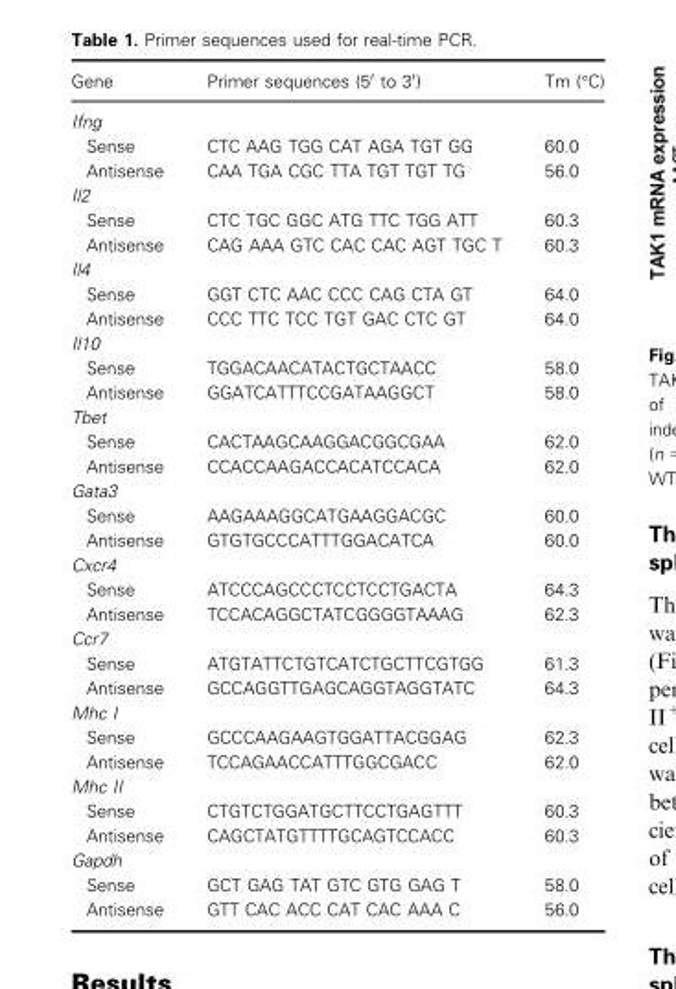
<table><thead><tr><td>Gene</td><td>Primer sequences (5′ to 3′)</td><td>Tm (°C)</td></tr></thead><tbody><tr><td colspan="3">Ifng</td></tr><tr><td>Sense</td><td>CTC AAG TGG CAT AGA TGT GG</td><td>60.0</td></tr><tr><td>Antisense</td><td>CAA TGA CGC TTA TGT TGT TG</td><td>56.0</td></tr><tr><td colspan="3">Il2</td></tr><tr><td>Sense</td><td>CTC TGC GGC ATG TTC TGG ATT</td><td>60.3</td></tr><tr><td>Antisense</td><td>CAG AAA GTC CAC CAC AGT TGC T</td><td>60.3</td></tr><tr><td colspan="3">Il4</td></tr><tr><td>Sense</td><td>GGT CTC AAC CCC CAG CTA GT</td><td>64.0</td></tr><tr><td>Antisense</td><td>CCC TTC TCC TGT GAC CTC GT</td><td>64.0</td></tr><tr><td colspan="3">Il10</td></tr><tr><td>Sense</td><td>TGGACAACATACTGCTAACC</td><td>58.0</td></tr><tr><td>Antisense</td><td>GGATCATTTCCGATAAGGCT</td><td>58.0</td></tr><tr><td colspan="3">Tbet</td></tr><tr><td>Sense</td><td>CACTAAGCAAGGACGGCGAA</td><td>62.0</td></tr><tr><td>Antisense</td><td>CCACCAAGACCACATCCACA</td><td>62.0</td></tr><tr><td colspan="3">Gata3</td></tr><tr><td>Sense</td><td>AAGAAAGGCATGAAGGACGC</td><td>60.0</td></tr><tr><td>Antisense</td><td>GTGTGCCCATTTGGACATCA</td><td>60.0</td></tr><tr><td colspan="3">Cxcr4</td></tr><tr><td>Sense</td><td>ATCCCAGCCCTCCTCCTGACTA</td><td>64.3</td></tr><tr><td>Antisense</td><td>TCCACAGGCTATCGGGGTAAAG</td><td>62.3</td></tr><tr><td colspan="3">Ccr7</td></tr><tr><td>Sense</td><td>ATGTATTCTGTCATCTGCTTCGTGG</td><td>61.3</td></tr><tr><td>Antisense</td><td>GCCAGGTTGAGCAGGTAGGTATC</td><td>64.3</td></tr><tr><td colspan="3">Mhc I</td></tr><tr><td>Sense</td><td>GCCCAAGAAGTGGATTACGGAG</td><td>62.3</td></tr><tr><td>Antisense</td><td>TCCAGAACCATTTGGCGACC</td><td>62.0</td></tr><tr><td colspan="3">Mhc II</td></tr><tr><td>Sense</td><td>CTGTCTGGATGCTTCCTGAGTTT</td><td>60.3</td></tr><tr><td>Antisense</td><td>CAGCTATGTTTTGCAGTCCACC</td><td>60.3</td></tr><tr><td colspan="3">Gapdh</td></tr><tr><td>Sense</td><td>GCT GAG TAT GTC GTG GAG T</td><td>58.0</td></tr><tr><td>Antisense</td><td>GTT CAC ACC CAT CAC AAA C</td><td>56.0</td></tr></tbody></table>